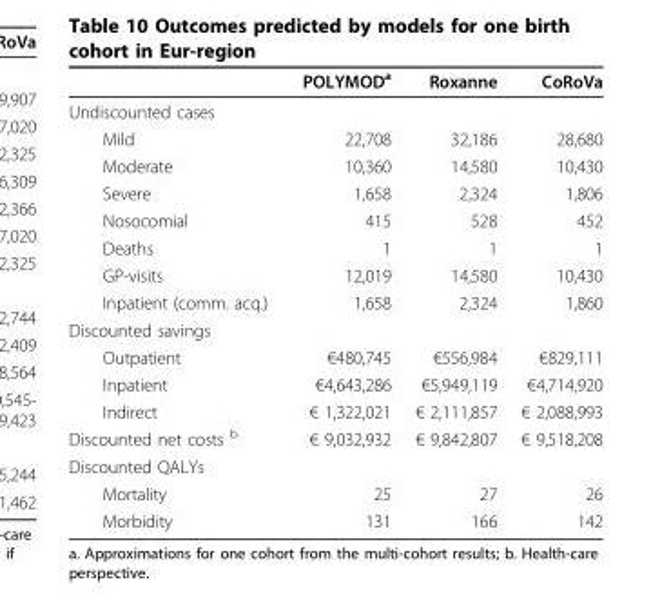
<table><thead><tr><td></td><td>POLYMOD<sup>a</sup></td><td>Roxanne</td><td>CoRoVa</td></tr></thead><tbody><tr><td colspan="4">Undiscounted cases</td></tr><tr><td>Mild</td><td>22,708</td><td>32,186</td><td>28,680</td></tr><tr><td>Moderate</td><td>10,360</td><td>14,580</td><td>10,430</td></tr><tr><td>Severe</td><td>1,658</td><td>2,324</td><td>1,806</td></tr><tr><td>Nosocomial</td><td>415</td><td>528</td><td>452</td></tr><tr><td>Deaths</td><td>1</td><td>1</td><td>1</td></tr><tr><td>GP-visits</td><td>12,019</td><td>14,580</td><td>10,430</td></tr><tr><td>Inpatient (comm. acq.)</td><td>1,658</td><td>2,324</td><td>1,860</td></tr><tr><td colspan="4">Discounted savings</td></tr><tr><td>Outpatient</td><td>€480,745</td><td>€556,984</td><td>€829,111</td></tr><tr><td>Inpatient</td><td>€4,643,286</td><td>€5,949,119</td><td>€4,714,920</td></tr><tr><td>Indirect</td><td>€ 1,322,021</td><td>€ 2,111,857</td><td>€ 2,088,993</td></tr><tr><td>Discounted net costs <sup>b</sup></td><td>€ 9,032,932</td><td>€ 9,842,807</td><td>€ 9,518,208</td></tr><tr><td colspan="4">Discounted QALYs</td></tr><tr><td>Mortality</td><td>25</td><td>27</td><td>26</td></tr><tr><td>Morbidity</td><td>131</td><td>166</td><td>142</td></tr></tbody></table>